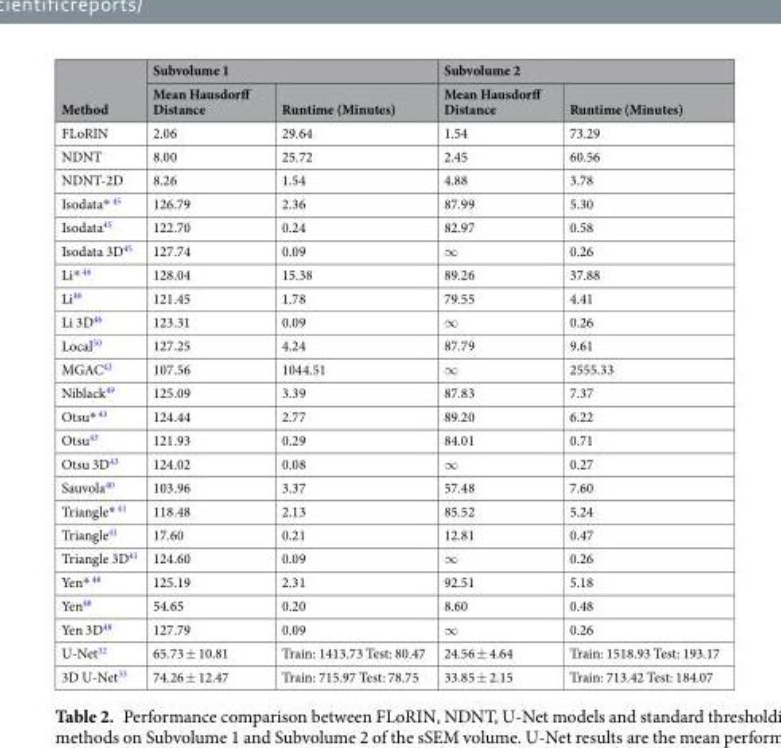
<table><thead><tr><td rowspan="2">Method</td><td colspan="2">Subvolume 1</td><td colspan="2">Subvolume 2</td></tr><tr><td>Mean Hausdorff Distance</td><td>Runtime (Minutes)</td><td>Mean Hausdorff Distance</td><td>Runtime (Minutes)</td></tr></thead><tbody><tr><td>FLoRIN</td><td>2.06</td><td>29.64</td><td>1.54</td><td>73.29</td></tr><tr><td>NDNT</td><td>8.00</td><td>25.72</td><td>2.45</td><td>60.56</td></tr><tr><td>NDNT-2D</td><td>8.26</td><td>1.54</td><td>4.88</td><td>3.78</td></tr><tr><td>Isodata* <sup>45</sup></td><td>126.79</td><td>2.36</td><td>87.99</td><td>5.30</td></tr><tr><td>Isodata<sup>45</sup></td><td>122.70</td><td>0.24</td><td>82.97</td><td>0.58</td></tr><tr><td>Isodata 3D<sup>45</sup></td><td>127.74</td><td>0.09</td><td>∞</td><td>0.26</td></tr><tr><td>Li* <sup>46</sup></td><td>128.04</td><td>15.38</td><td>89.26</td><td>37.88</td></tr><tr><td>Li<sup>46</sup></td><td>121.45</td><td>1.78</td><td>79.55</td><td>4.41</td></tr><tr><td>Li 3D<sup>46</sup></td><td>123.31</td><td>0.09</td><td>∞</td><td>0.26</td></tr><tr><td>Local<sup>50</sup></td><td>127.25</td><td>4.24</td><td>87.79</td><td>9.61</td></tr><tr><td>MGAC<sup>42</sup></td><td>107.56</td><td>1044.51</td><td>∞</td><td>2555.33</td></tr><tr><td>Niblack<sup>49</sup></td><td>125.09</td><td>3.39</td><td>87.83</td><td>7.37</td></tr><tr><td>Otsu* <sup>43</sup></td><td>124.44</td><td>2.77</td><td>89.20</td><td>6.22</td></tr><tr><td>Otsu<sup>43</sup></td><td>121.93</td><td>0.29</td><td>84.01</td><td>0.71</td></tr><tr><td>Otsu 3D<sup>43</sup></td><td>124.02</td><td>0.08</td><td>∞</td><td>0.27</td></tr><tr><td>Sauvola<sup>40</sup></td><td>103.96</td><td>3.37</td><td>57.48</td><td>7.60</td></tr><tr><td>Triangle* <sup>41</sup></td><td>118.48</td><td>2.13</td><td>85.52</td><td>5.24</td></tr><tr><td>Triangle<sup>41</sup></td><td>17.60</td><td>0.21</td><td>12.81</td><td>0.47</td></tr><tr><td>Triangle 3D<sup>41</sup></td><td>124.60</td><td>0.09</td><td>∞</td><td>0.26</td></tr><tr><td>Yen* <sup>48</sup></td><td>125.19</td><td>2.31</td><td>92.51</td><td>5.18</td></tr><tr><td>Yen<sup>48</sup></td><td>54.65</td><td>0.20</td><td>8.60</td><td>0.48</td></tr><tr><td>Yen 3D<sup>48</sup></td><td>127.79</td><td>0.09</td><td>∞</td><td>0.26</td></tr><tr><td>U-Net<sup>32</sup></td><td>65.73 ± 10.81</td><td>Train: 1413.73 Test: 80.47</td><td>24.56 ± 4.64</td><td>Train: 1518.93 Test: 193.17</td></tr><tr><td>3D U-Net<sup>33</sup></td><td>74.26 ± 12.47</td><td>Train: 715.97 Test: 78.75</td><td>33.85 ± 2.15</td><td>Train: 713.42 Test: 184.07</td></tr></tbody></table>